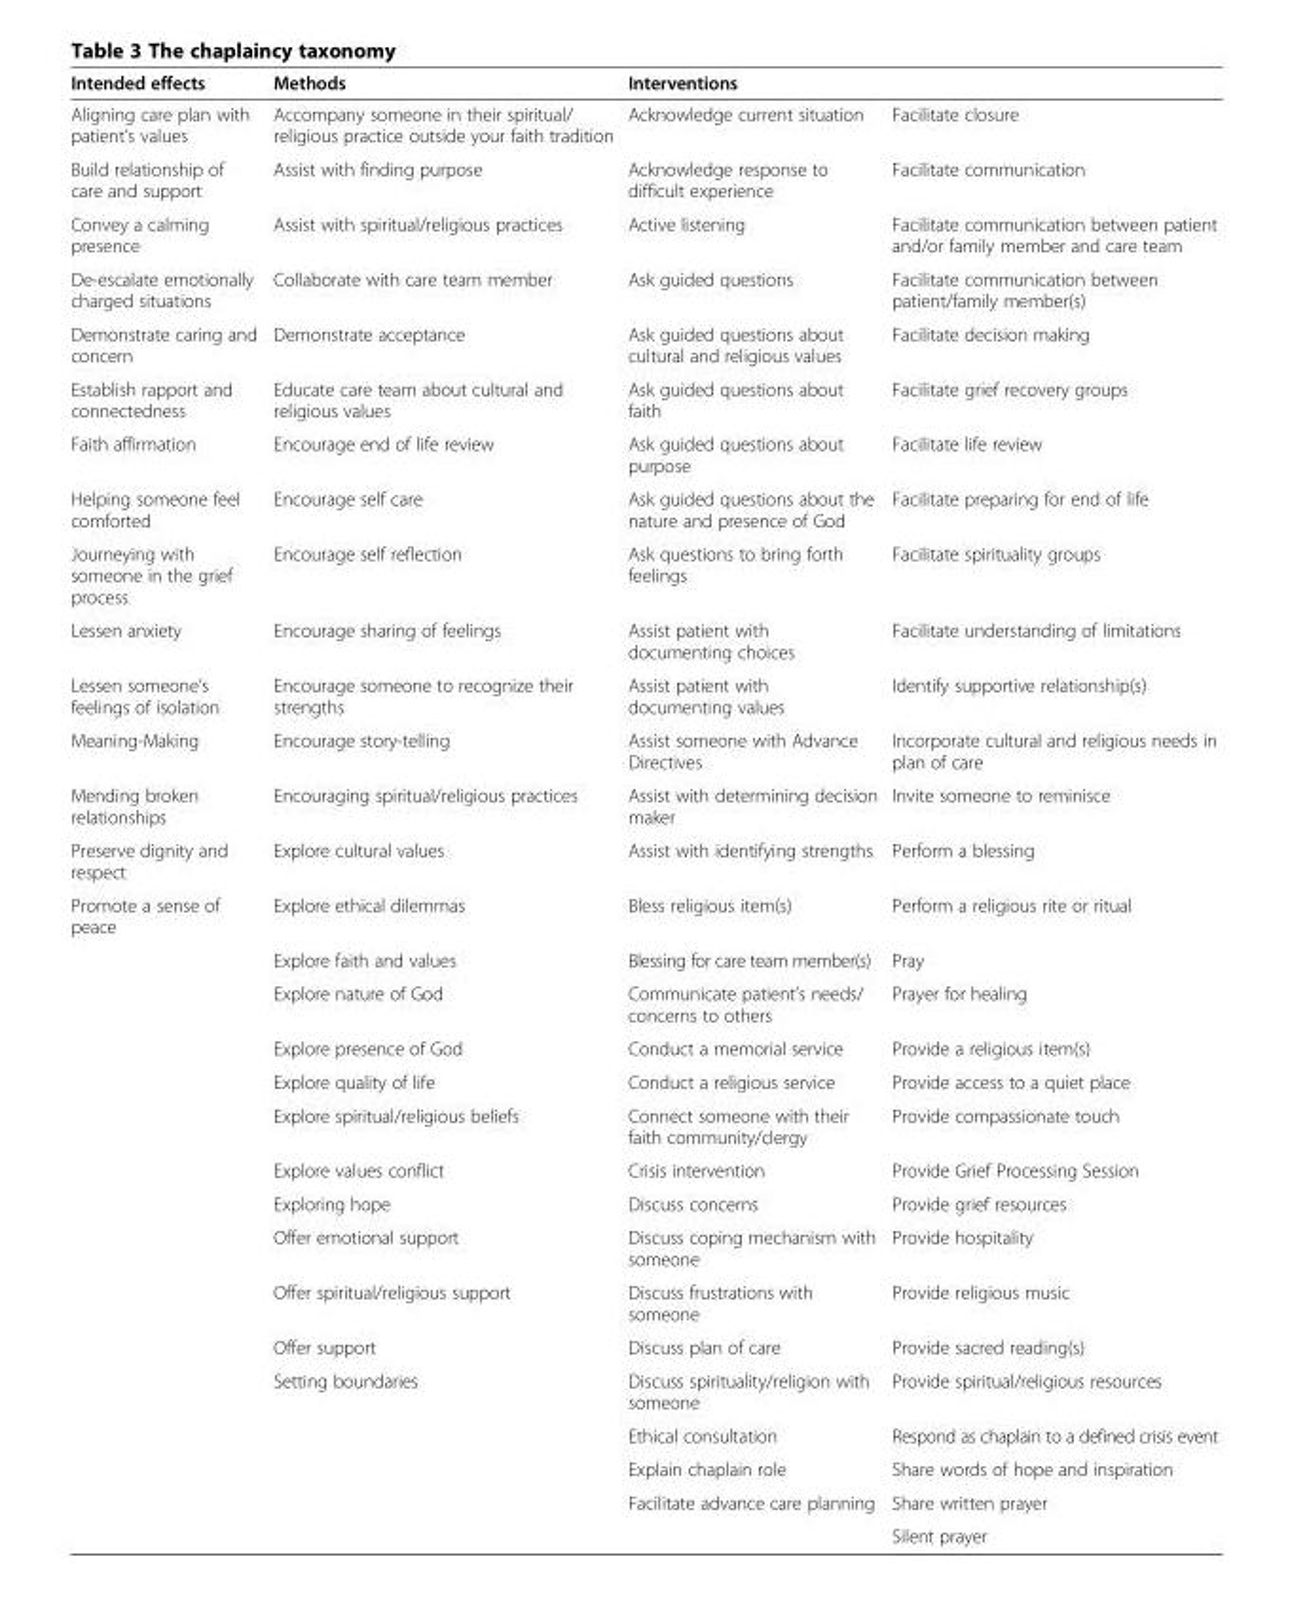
<table><thead><tr><td rowspan="2">Intended effects Aligning care plan with patient’s values</td><td rowspan="2">Methods Accompany someone in their spiritual/ religious practice outside your faith tradition</td><td colspan="2">Interventions</td></tr><tr><td>Acknowledge current situation</td><td>Facilitate closure</td></tr></thead><tbody><tr><td>Build relationship of care and support</td><td>Assist with finding purpose</td><td>Acknowledge response to difficult experience</td><td>Facilitate communication</td></tr><tr><td>Convey a calming presence</td><td>Assist with spiritual/religious practices</td><td>Active listening</td><td>Facilitate communication between patient and/or family member and care team</td></tr><tr><td>De-escalate emotionally charged situations</td><td>Collaborate with care team member</td><td>Ask guided questions</td><td>Facilitate communication between patient/family member(s)</td></tr><tr><td>Demonstrate caring and concern</td><td>Demonstrate acceptance</td><td>Ask guided questions about cultural and religious values</td><td>Facilitate decision making</td></tr><tr><td>Establish rapport and connectedness</td><td>Educate care team about cultural and religious values</td><td>Ask guided questions about faith</td><td>Facilitate grief recovery groups</td></tr><tr><td>Faith affirmation</td><td>Encourage end of life review</td><td>Ask guided questions about purpose</td><td>Facilitate life review</td></tr><tr><td>Helping someone feel comforted</td><td>Encourage self care</td><td>Ask guided questions about the nature and presence of God</td><td>Facilitate preparing for end of life</td></tr><tr><td>Journeying with someone in the grief process</td><td>Encourage self reflection</td><td>Ask questions to bring forth feelings</td><td>Facilitate spirituality groups</td></tr><tr><td>Lessen anxiety</td><td>Encourage sharing of feelings</td><td>Assist patient with documenting choices</td><td>Facilitate understanding of limitations</td></tr><tr><td>Lessen someone’s feelings of isolation</td><td>Encourage someone to recognize their strengths</td><td>Assist patient with documenting values</td><td>Identify supportive relationship(s)</td></tr><tr><td>Meaning-Making</td><td>Encourage story-telling</td><td>Assist someone with Advance Directives</td><td>Incorporate cultural and religious needs in plan of care</td></tr><tr><td>Mending broken relationships</td><td>Encouraging spiritual/religious practices</td><td>Assist with determining decision maker</td><td>Invite someone to reminisce</td></tr><tr><td>Preserve dignity and respect</td><td>Explore cultural values</td><td>Assist with identifying strengths</td><td>Perform a blessing</td></tr><tr><td rowspan="16">Promote a sense of peace</td><td>Explore ethical dilemmas</td><td>Bless religious item(s)</td><td>Perform a religious rite or ritual</td></tr><tr><td>Explore faith and values</td><td>Blessing for care team member(s)</td><td>Pray</td></tr><tr><td>Explore nature of God</td><td>Communicate patient’s needs/ concerns to others</td><td>Prayer for healing</td></tr><tr><td>Explore presence of God</td><td>Conduct a memorial service</td><td>Provide a religious item(s)</td></tr><tr><td>Explore quality of life</td><td>Conduct a religious service</td><td>Provide access to a quiet place</td></tr><tr><td>Explore spiritual/religious beliefs</td><td>Connect someone with their faith community/clergy</td><td>Provide compassionate touch</td></tr><tr><td>Explore values conflict</td><td>Crisis intervention</td><td>Provide Grief Processing Session</td></tr><tr><td>Exploring hope</td><td>Discuss concerns</td><td>Provide grief resources</td></tr><tr><td>Offer emotional support</td><td>Discuss coping mechanism with someone</td><td>Provide hospitality</td></tr><tr><td>Offer spiritual/religious support</td><td>Discuss frustrations with someone</td><td>Provide religious music</td></tr><tr><td>Offer support</td><td>Discuss plan of care</td><td>Provide sacred reading(s)</td></tr><tr><td>Setting boundaries</td><td>Discuss spirituality/religion with someone</td><td>Provide spiritual/religious resources</td></tr><tr><td></td><td>Ethical consultation</td><td>Respond as chaplain to a defined crisis event</td></tr><tr><td></td><td>Explain chaplain role</td><td>Share words of hope and inspiration</td></tr><tr><td></td><td>Facilitate advance care planning</td><td>Share written prayer</td></tr><tr><td></td><td></td><td>Silent prayer</td></tr></tbody></table>